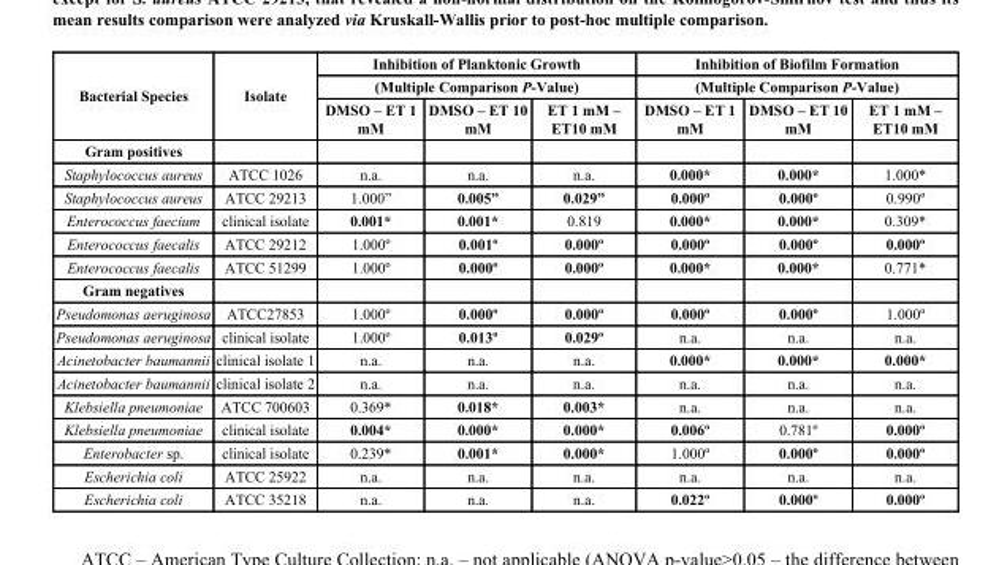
<table><thead><tr><td rowspan="3">Bacterial Species</td><td rowspan="3">Isolate</td><td rowspan="2" colspan="3">Inhibition of Planktonic Growth (Multiple Comparison P-Value)</td><td rowspan="2" colspan="3">Inhibition of Biofilm Formation (Multiple Comparison P-Value)</td></tr><tr></tr><tr><td>DMSO – ET 1 mM</td><td>DMSO – ET 10 mM</td><td>ET 1 mM – ET10 mM</td><td>DMSO – ET 1 mM</td><td>DMSO – ET 10 mM</td><td>ET 1 mM – ET10 mM</td></tr></thead><tbody><tr><td colspan="8">Gram positives</td></tr><tr><td>Staphylococcus aureus</td><td>ATCC 1026</td><td>n.a.</td><td>n.a.</td><td>n.a.</td><td>0.000*</td><td>0.000*</td><td>1.000*</td></tr><tr><td>Staphylococcus aureus</td><td>ATCC 29213</td><td>1.000”</td><td>0.005”</td><td>0.029”</td><td>0.000º</td><td>0.000º</td><td>0.990º</td></tr><tr><td>Enterococcus faecium</td><td>clinical isolate</td><td>0.001*</td><td>0.001*</td><td>0.819</td><td>0.000*</td><td>0.000*</td><td>0.309*</td></tr><tr><td>Enterococcus faecalis</td><td>ATCC 29212</td><td>1.000º</td><td>0.001º</td><td>0.000º</td><td>0.000º</td><td>0.000º</td><td>0.000º</td></tr><tr><td>Enterococcus faecalis</td><td>ATCC 51299</td><td>1.000º</td><td>0.000º</td><td>0.000º</td><td>0.000*</td><td>0.000*</td><td>0.771*</td></tr><tr><td colspan="8">Gram negatives</td></tr><tr><td>Pseudomonas aeruginosa</td><td>ATCC27853</td><td>1.000º</td><td>0.000º</td><td>0.000º</td><td>0.000º</td><td>0.000º</td><td>1.000º</td></tr><tr><td>Pseudomonas aeruginosa</td><td>clinical isolate</td><td>1.000º</td><td>0.013º</td><td>0.029º</td><td>n.a.</td><td>n.a.</td><td>n.a.</td></tr><tr><td>Acinetobacter baumannii</td><td>clinical isolate 1</td><td>n.a.</td><td>n.a.</td><td>n.a.</td><td>0.000*</td><td>0.000*</td><td>0.000*</td></tr><tr><td>Acinetobacter baumannii</td><td>clinical isolate 2</td><td>n.a.</td><td>n.a.</td><td>n.a.</td><td>n.a.</td><td>n.a.</td><td>n.a.</td></tr><tr><td>Klebsiella pneumoniae</td><td>ATCC 700603</td><td>0.369*</td><td>0.018*</td><td>0.003*</td><td>n.a.</td><td>n.a.</td><td>n.a.</td></tr><tr><td>Klebsiella pneumoniae</td><td>clinical isolate</td><td>0.004*</td><td>0.000*</td><td>0.000*</td><td>0.006º</td><td>0.781º</td><td>0.000º</td></tr><tr><td>Enterobacter sp.</td><td>clinical isolate</td><td>0.239*</td><td>0.001*</td><td>0.000*</td><td>1.000º</td><td>0.000º</td><td>0.000º</td></tr><tr><td>Escherichia coli</td><td>ATCC 25922</td><td>n.a.</td><td>n.a.</td><td>n.a.</td><td>n.a.</td><td>n.a.</td><td>n.a.</td></tr><tr><td>Escherichia coli</td><td>ATCC 35218</td><td>n.a.</td><td>n.a.</td><td>n.a.</td><td>0.022º</td><td>0.000º</td><td>0.000º</td></tr></tbody></table>